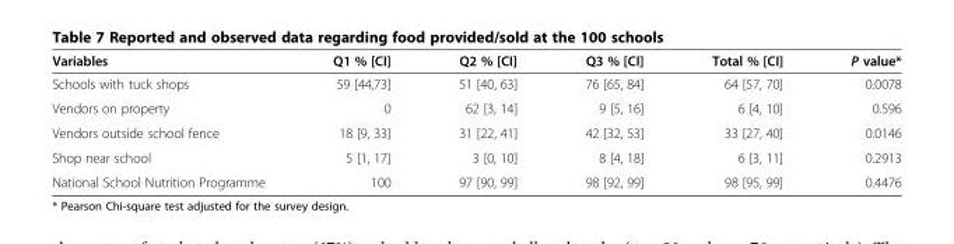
<table><thead><tr><td>Variables</td><td>Q1 % [CI]</td><td>Q2 % [CI]</td><td>Q3 % [CI]</td><td>Total % [CI]</td><td>P value*</td></tr></thead><tbody><tr><td>Schools with tuck shops</td><td>59 [44,73]</td><td>51 [40, 63]</td><td>76 [65, 84]</td><td>64 [57, 70]</td><td>0.0078</td></tr><tr><td>Vendors on property</td><td>0</td><td>62 [3, 14]</td><td>9 [5, 16]</td><td>6 [4, 10]</td><td>0.596</td></tr><tr><td>Vendors outside school fence</td><td>18 [9, 33]</td><td>31 [22, 41]</td><td>42 [32, 53]</td><td>33 [27, 40]</td><td>0.0146</td></tr><tr><td>Shop near school</td><td>5 [1, 17]</td><td>3 [0, 10]</td><td>8 [4, 18]</td><td>6 [3, 11]</td><td>0.2913</td></tr><tr><td>National School Nutrition Programme</td><td>100</td><td>97 [90, 99]</td><td>98 [92, 99]</td><td>98 [95, 99]</td><td>0.4476</td></tr></tbody></table>